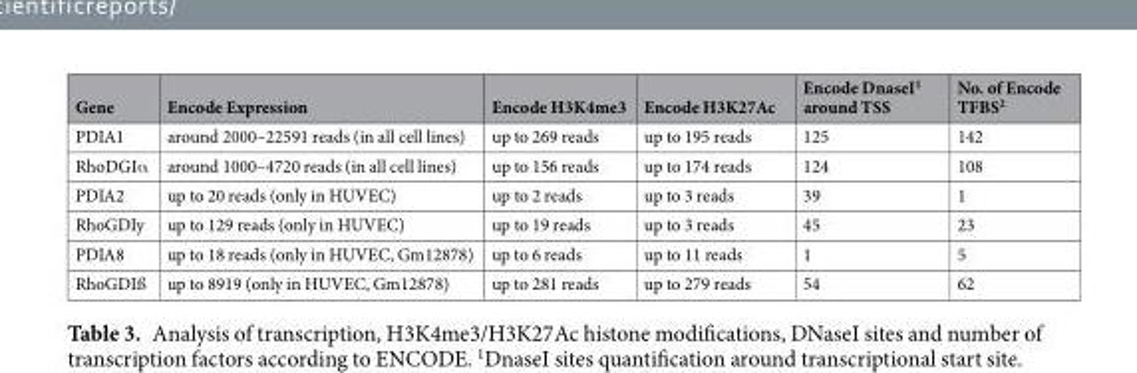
<table><thead><tr><td>Gene</td><td>Encode Expression</td><td>Encode H3K4me3</td><td>Encode H3K27Ac</td><td>Encode DnaseI<sup>1</sup> around TSS</td><td>No. of Encode TFBS<sup>2</sup></td></tr></thead><tbody><tr><td>PDIA1</td><td>around 2000–22591 reads (in all cell lines)</td><td>up to 269 reads</td><td>up to 195 reads</td><td>125</td><td>142</td></tr><tr><td>RhoDGIα</td><td>around 1000–4720 reads (in all cell lines)</td><td>up to 156 reads</td><td>up to 174 reads</td><td>124</td><td>108</td></tr><tr><td>PDIA2</td><td>up to 20 reads (only in HUVEC)</td><td>up to 2 reads</td><td>up to 3 reads</td><td>39</td><td>1</td></tr><tr><td>RhoGDIy</td><td>up to 129 reads (only in HUVEC)</td><td>up to 19 reads</td><td>up to 3 reads</td><td>45</td><td>23</td></tr><tr><td>PDIA8</td><td>up to 18 reads (only in HUVEC, Gm12878)</td><td>up to 6 reads</td><td>up to 11 reads</td><td>1</td><td>5</td></tr><tr><td>RhoGDIß</td><td>up to 8919 (only in HUVEC, Gm12878)</td><td>up to 281 reads</td><td>up to 279 reads</td><td>54</td><td>62</td></tr></tbody></table>